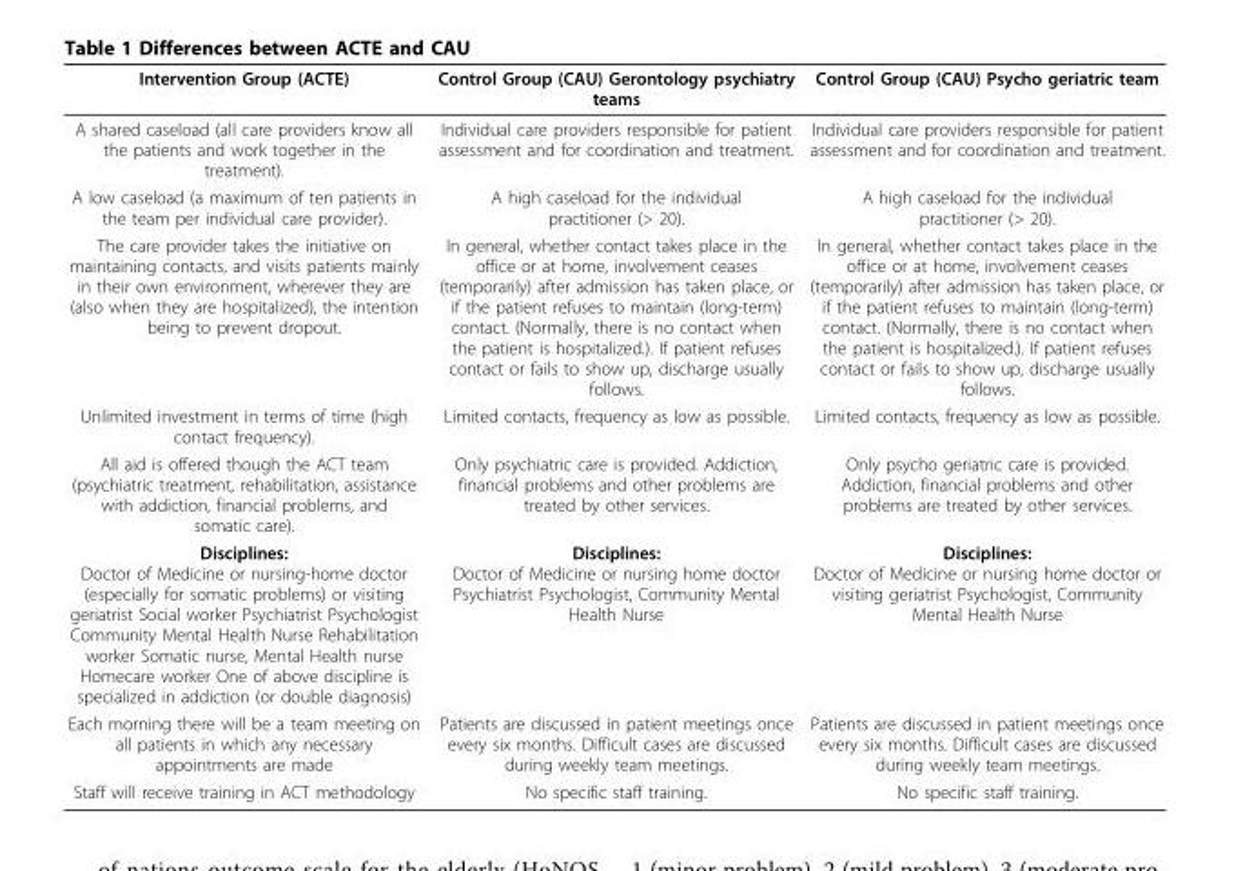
<table><thead><tr><td>Intervention Group (ACTE)</td><td>Control Group (CAU) Gerontology psychiatry teams</td><td>Control Group (CAU) Psycho geriatric team</td></tr></thead><tbody><tr><td>A shared caseload (all care providers know all the patients and work together in the treatment).</td><td>Individual care providers responsible for patient assessment and for coordination and treatment.</td><td>Individual care providers responsible for patient assessment and for coordination and treatment.</td></tr><tr><td>A low caseload (a maximum of ten patients in the team per individual care provider).</td><td>A high caseload for the individual practitioner (&gt; 20).</td><td>A high caseload for the individual practitioner (&gt; 20).</td></tr><tr><td>The care provider takes the initiative on maintaining contacts, and visits patients mainly in their own environment, wherever they are (also when they are hospitalized), the intention being to prevent dropout.</td><td>In general, whether contact takes place in the office or at home, involvement ceases (temporarily) after admission has taken place, or if the patient refuses to maintain (long-term) contact. (Normally, there is no contact when the patient is hospitalized.). If patient refuses contact or fails to show up, discharge usually follows.</td><td>In general, whether contact takes place in the office or at home, involvement ceases (temporarily) after admission has taken place, or if the patient refuses to maintain (long-term) contact. (Normally, there is no contact when the patient is hospitalized.). If patient refuses contact or fails to show up, discharge usually follows.</td></tr><tr><td>Unlimited investment in terms of time (high contact frequency).</td><td>Limited contacts, frequency as low as possible.</td><td>Limited contacts, frequency as low as possible.</td></tr><tr><td>All aid is offered though the ACT team (psychiatric treatment, rehabilitation, assistance with addiction, financial problems, and somatic care).</td><td>Only psychiatric care is provided. Addiction, financial problems and other problems are treated by other services.</td><td>Only psycho geriatric care is provided. Addiction, financial problems and other problems are treated by other services.</td></tr><tr><td>Disciplines: Doctor of Medicine or nursing-home doctor (especially for somatic problems) or visiting geriatrist Social worker Psychiatrist Psychologist Community Mental Health Nurse Rehabilitation worker Somatic nurse, Mental Health nurse Homecare worker One of above discipline is specialized in addiction (or double diagnosis)</td><td>Disciplines: Doctor of Medicine or nursing home doctor Psychiatrist Psychologist, Community Mental Health Nurse</td><td>Disciplines: Doctor of Medicine or nursing home doctor or visiting geriatrist Psychologist, Community Mental Health Nurse</td></tr><tr><td>Each morning there will be a team meeting on all patients in which any necessary appointments are made</td><td>Patients are discussed in patient meetings once every six months. Difficult cases are discussed during weekly team meetings.</td><td>Patients are discussed in patient meetings once every six months. Difficult cases are discussed during weekly team meetings.</td></tr><tr><td>Staff will receive training in ACT methodology</td><td>No specific staff training.</td><td>No specific staff training.</td></tr></tbody></table>